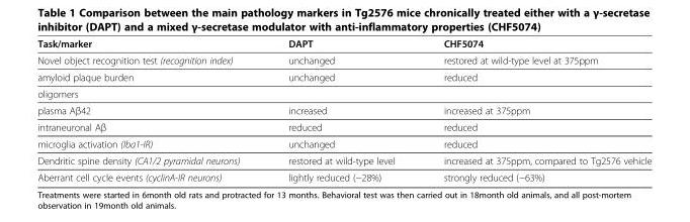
<table><thead><tr><td>Task/marker</td><td>DAPT</td><td>CHF5074</td></tr></thead><tbody><tr><td>Novel object recognition test (recognition index)</td><td>unchanged</td><td>restored at wild-type level at 375ppm</td></tr><tr><td>amyloid plaque burden</td><td>unchanged</td><td>reduced</td></tr><tr><td colspan="3">oligomers</td></tr><tr><td>plasma Aβ42</td><td>increased</td><td>increased at 375ppm</td></tr><tr><td>intraneuronal Aβ</td><td>reduced</td><td>reduced</td></tr><tr><td>microglia activation (Iba1-IR)</td><td>unchanged</td><td>reduced</td></tr><tr><td>Dendritic spine density (CA1/2 pyramidal neurons)</td><td>restored at wild-type level</td><td>increased at 375ppm, compared to Tg2576 vehicle</td></tr><tr><td>Aberrant cell cycle events (cyclinA-IR neurons)</td><td>lightly reduced (−28%)</td><td>strongly reduced (−63%)</td></tr></tbody></table>